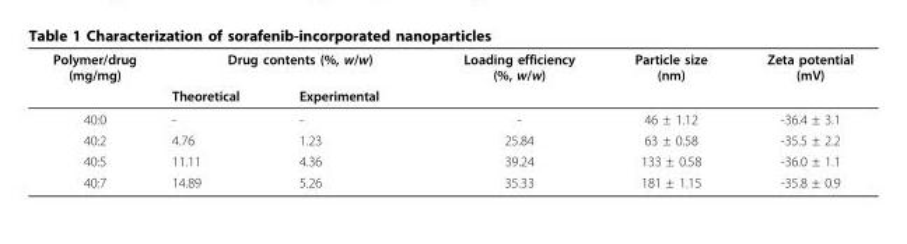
<table><thead><tr><td rowspan="2">Polymer/drug (mg/mg)</td><td colspan="2">Drug contents (%, w/w)</td><td rowspan="2">Loading efficiency (%, w/w)</td><td rowspan="2">Particle size (nm)</td><td rowspan="2">Zeta potential (mV)</td></tr><tr><td>Theoretical</td><td>Experimental</td></tr></thead><tbody><tr><td>40:0</td><td>-</td><td>-</td><td>-</td><td>46 ± 1.12</td><td>-36.4 ± 3.1</td></tr><tr><td>40:2</td><td>4.76</td><td>1.23</td><td>25.84</td><td>63 ± 0.58</td><td>-35.5 ± 2.2</td></tr><tr><td>40:5</td><td>11.11</td><td>4.36</td><td>39.24</td><td>133 ± 0.58</td><td>-36.0 ± 1.1</td></tr><tr><td>40:7</td><td>14.89</td><td>5.26</td><td>35.33</td><td>181 ± 1.15</td><td>-35.8 ± 0.9</td></tr></tbody></table>